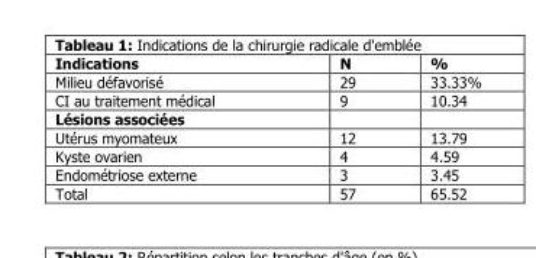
<table><thead><tr><td>Indications</td><td>N</td><td>%</td></tr></thead><tbody><tr><td>Milieu défavorisé</td><td>29</td><td>33.33%</td></tr><tr><td>CI au traitement médical</td><td>9</td><td>10.34</td></tr><tr><td colspan="3">Lésions associées</td></tr><tr><td>Utérus myomateux</td><td>12</td><td>13.79</td></tr><tr><td>Kyste ovarien</td><td>4</td><td>4.59</td></tr><tr><td>Endométriose externe</td><td>3</td><td>3.45</td></tr><tr><td>Total</td><td>57</td><td>65.52</td></tr></tbody></table>